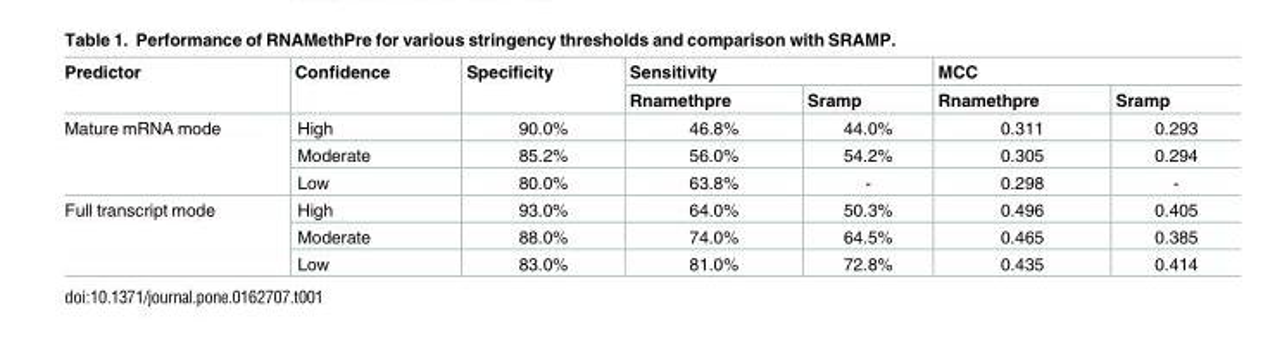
<table><thead><tr><td rowspan="2">Predictor</td><td rowspan="2">Confidence</td><td rowspan="2">Specificity</td><td colspan="2">Sensitivity</td><td colspan="2">MCC</td></tr><tr><td>Rnamethpre</td><td>Sramp</td><td>Rnamethpre</td><td>Sramp</td></tr></thead><tbody><tr><td rowspan="3">Mature mRNA mode</td><td>High</td><td>90.0%</td><td>46.8%</td><td>44.0%</td><td>0.311</td><td>0.293</td></tr><tr><td>Moderate</td><td>85.2%</td><td>56.0%</td><td>54.2%</td><td>0.305</td><td>0.294</td></tr><tr><td>Low</td><td>80.0%</td><td>63.8%</td><td>-</td><td>0.298</td><td>-</td></tr><tr><td rowspan="3">Full transcript mode</td><td>High</td><td>93.0%</td><td>64.0%</td><td>50.3%</td><td>0.496</td><td>0.405</td></tr><tr><td>Moderate</td><td>88.0%</td><td>74.0%</td><td>64.5%</td><td>0.465</td><td>0.385</td></tr><tr><td>Low</td><td>83.0%</td><td>81.0%</td><td>72.8%</td><td>0.435</td><td>0.414</td></tr></tbody></table>